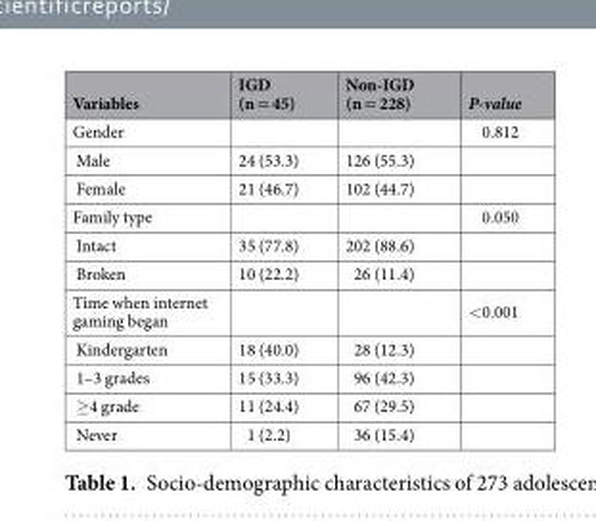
<table><thead><tr><td>Variables</td><td>IGD (n = 45)</td><td>Non-IGD (n = 228)</td><td>P-value</td></tr></thead><tbody><tr><td>Gender</td><td></td><td></td><td>0.812</td></tr><tr><td>Male</td><td>24 (53.3)</td><td>126 (55.3)</td><td></td></tr><tr><td>Female</td><td>21 (46.7)</td><td>102 (44.7)</td><td></td></tr><tr><td>Family type</td><td></td><td></td><td>0.050</td></tr><tr><td>Intact</td><td>35 (77.8)</td><td>202 (88.6)</td><td></td></tr><tr><td>Broken</td><td>10 (22.2)</td><td>26 (11.4)</td><td></td></tr><tr><td>Time when internet gaming began</td><td></td><td></td><td>&lt;0.001</td></tr><tr><td>Kindergarten</td><td>18 (40.0)</td><td>28 (12.3)</td><td></td></tr><tr><td>1–3 grades</td><td>15 (33.3)</td><td>96 (42.3)</td><td></td></tr><tr><td>≥4 grade</td><td>11 (24.4)</td><td>67 (29.5)</td><td></td></tr><tr><td>Never</td><td>1 (2.2)</td><td>36 (15.4)</td><td></td></tr></tbody></table>